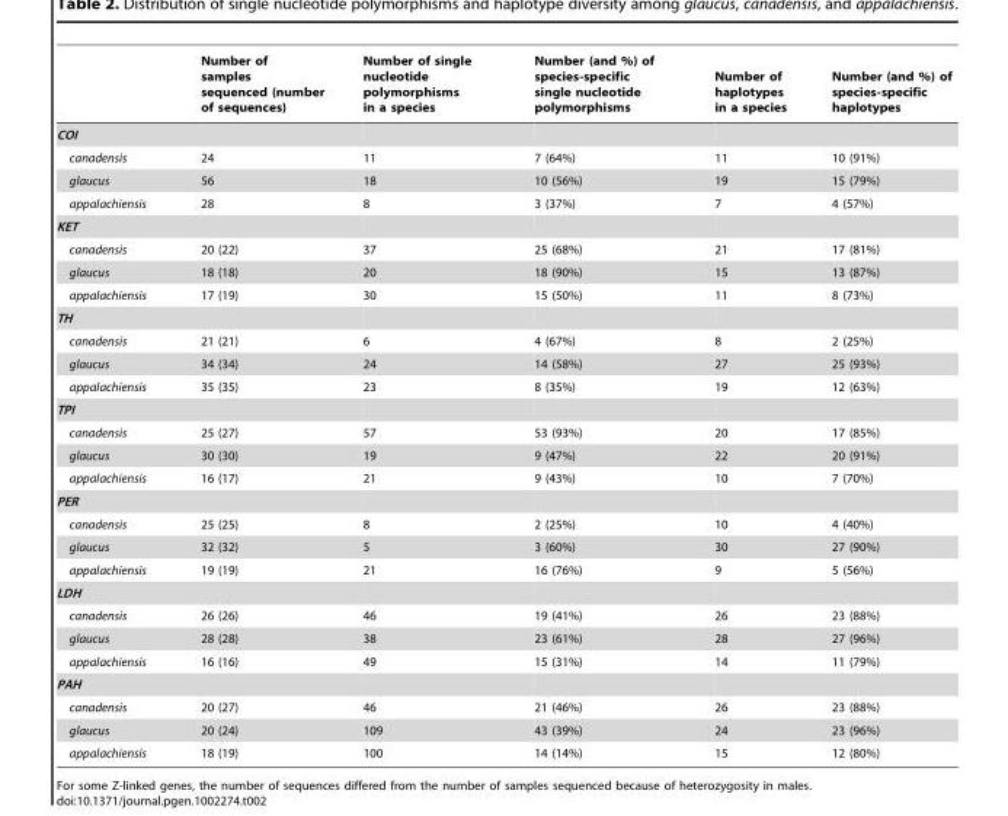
<table><thead><tr><td></td><td>Number of samples sequenced (number of sequences)</td><td>Number of single nucleotide polymorphisms in a species</td><td>Number (and %) of species-specific single nucleotide polymorphisms</td><td>Number of haplotypes in a species</td><td>Number (and %) of species-specific haplotypes</td></tr></thead><tbody><tr><td colspan="6">COI</td></tr><tr><td>canadensis</td><td>24</td><td>11</td><td>7 (64%)</td><td>11</td><td>10 (91%)</td></tr><tr><td>glaucus</td><td>56</td><td>18</td><td>10 (56%)</td><td>19</td><td>15 (79%)</td></tr><tr><td>appalachiensis</td><td>28</td><td>8</td><td>3 (37%)</td><td>7</td><td>4 (57%)</td></tr><tr><td colspan="6">KET</td></tr><tr><td>canadensis</td><td>20 (22)</td><td>37</td><td>25 (68%)</td><td>21</td><td>17 (81%)</td></tr><tr><td>glaucus</td><td>18 (18)</td><td>20</td><td>18 (90%)</td><td>15</td><td>13 (87%)</td></tr><tr><td>appalachiensis</td><td>17 (19)</td><td>30</td><td>15 (50%)</td><td>11</td><td>8 (73%)</td></tr><tr><td colspan="6">TH</td></tr><tr><td>canadensis</td><td>21 (21)</td><td>6</td><td>4 (67%)</td><td>8</td><td>2 (25%)</td></tr><tr><td>glaucus</td><td>34 (34)</td><td>24</td><td>14 (58%)</td><td>27</td><td>25 (93%)</td></tr><tr><td>appalachiensis</td><td>35 (35)</td><td>23</td><td>8 (35%)</td><td>19</td><td>12 (63%)</td></tr><tr><td colspan="6">TPI</td></tr><tr><td>canadensis</td><td>25 (27)</td><td>57</td><td>53 (93%)</td><td>20</td><td>17 (85%)</td></tr><tr><td>glaucus</td><td>30 (30)</td><td>19</td><td>9 (47%)</td><td>22</td><td>20 (91%)</td></tr><tr><td>appalachiensis</td><td>16 (17)</td><td>21</td><td>9 (43%)</td><td>10</td><td>7 (70%)</td></tr><tr><td colspan="6">PER</td></tr><tr><td>canadensis</td><td>25 (25)</td><td>8</td><td>2 (25%)</td><td>10</td><td>4 (40%)</td></tr><tr><td>glaucus</td><td>32 (32)</td><td>5</td><td>3 (60%)</td><td>30</td><td>27 (90%)</td></tr><tr><td>appalachiensis</td><td>19 (19)</td><td>21</td><td>16 (76%)</td><td>9</td><td>5 (56%)</td></tr><tr><td colspan="6">LDH</td></tr><tr><td>canadensis</td><td>26 (26)</td><td>46</td><td>19 (41%)</td><td>26</td><td>23 (88%)</td></tr><tr><td>glaucus</td><td>28 (28)</td><td>38</td><td>23 (61%)</td><td>28</td><td>27 (96%)</td></tr><tr><td>appalachiensis</td><td>16 (16)</td><td>49</td><td>15 (31%)</td><td>14</td><td>11 (79%)</td></tr><tr><td colspan="6">PAH</td></tr><tr><td>canadensis</td><td>20 (27)</td><td>46</td><td>21 (46%)</td><td>26</td><td>23 (88%)</td></tr><tr><td>glaucus</td><td>20 (24)</td><td>109</td><td>43 (39%)</td><td>24</td><td>23 (96%)</td></tr><tr><td>appalachiensis</td><td>18 (19)</td><td>100</td><td>14 (14%)</td><td>15</td><td>12 (80%)</td></tr></tbody></table>